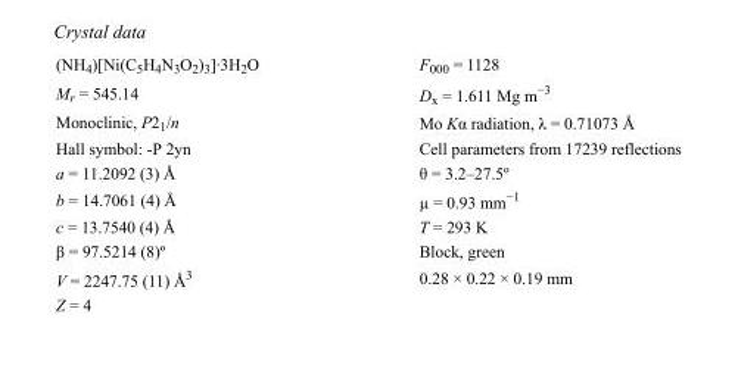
<table><tbody><tr><td>(NH<sub>4</sub>)[Ni(C<sub>5</sub>H<sub>4</sub>N<sub>3</sub>O<sub>2</sub>)<sub>3</sub>]·3H<sub>2</sub>O</td><td>F000 = 1128</td></tr><tr><td>M<sub>r</sub> = 545.14</td><td>D<sub>x</sub> = 1.611 Mg m<sup>−3</sup></td></tr><tr><td>Monoclinic, P2<sub>1</sub>/n</td><td>Mo Kα radiation, λ = 0.71073 Å</td></tr><tr><td>Hall symbol: -P 2yn</td><td>Cell parameters from 17239 reflections</td></tr><tr><td>a = 11.2092 (3) Å</td><td>θ = 3.2–27.5º</td></tr><tr><td>b = 14.7061 (4) Å</td><td>µ = 0.93 mm<sup>−1</sup></td></tr><tr><td>c = 13.7540 (4) Å</td><td>T = 293 K</td></tr><tr><td>β = 97.5214 (8)º</td><td>Block, green</td></tr><tr><td>V = 2247.75 (11) Å<sup>3</sup></td><td>0.28 × 0.22 × 0.19 mm</td></tr><tr><td>Z = 4</td><td></td></tr></tbody></table>